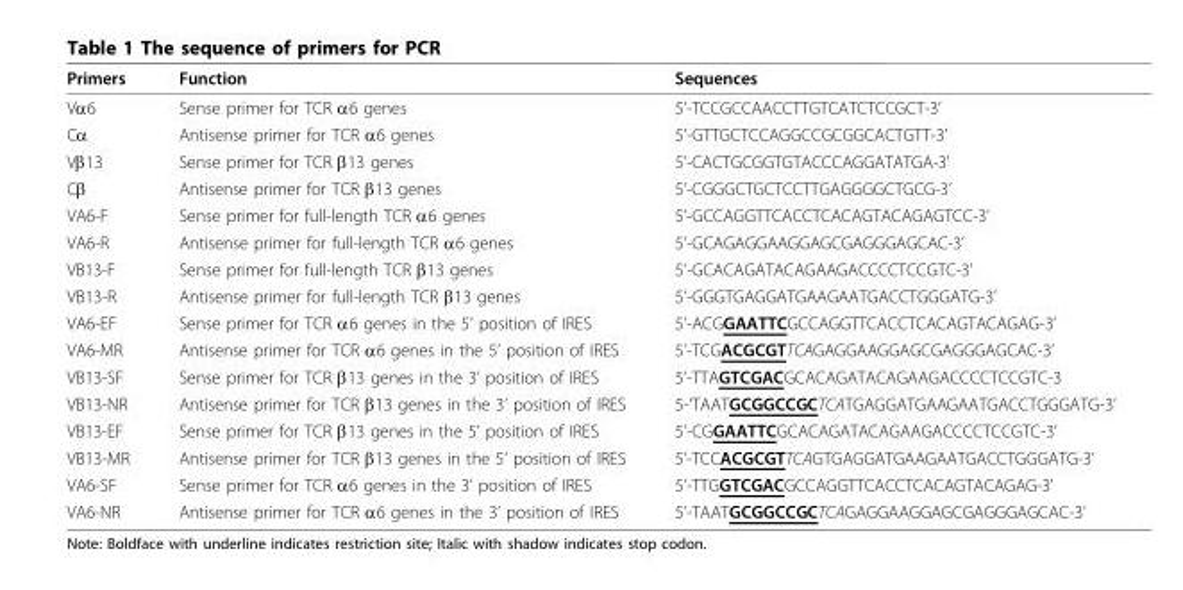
<table><thead><tr><td>Primers</td><td>Function</td><td>Sequences</td></tr></thead><tbody><tr><td>Vα6</td><td>Sense primer for TCR α6 genes</td><td>5’-TCCGCCAACCTTGTCATCTCCGCT-3’</td></tr><tr><td>Cα</td><td>Antisense primer for TCR α6 genes</td><td>5’-GTTGCTCCAGGCCGCGGCACTGTT-3’</td></tr><tr><td>Vβ13</td><td>Sense primer for TCR β13 genes</td><td>5’-CACTGCGGTGTACCCAGGATATGA-3’</td></tr><tr><td>Cβ</td><td>Antisense primer for TCR β13 genes</td><td>5’-CGGGCTGCTCCTTGAGGGGCTGCG-3’</td></tr><tr><td>VA6-F</td><td>Sense primer for full-length TCR α6 genes</td><td>5’-GCCAGGTTCACCTCACAGTACAGAGTCC-3’</td></tr><tr><td>VA6-R</td><td>Antisense primer for full-length TCR α6 genes</td><td>5’-GCAGAGGAAGGAGCGAGGGAGCAC-3’</td></tr><tr><td>VB13-F</td><td>Sense primer for full-length TCR β13 genes</td><td>5’-GCACAGATACAGAAGACCCCTCCGTC-3’</td></tr><tr><td>VB13-R</td><td>Antisense primer for full-length TCR β13 genes</td><td>5’-GGGTGAGGATGAAGAATGACCTGGGATG-3’</td></tr><tr><td>VA6-EF</td><td>Sense primer for TCR α6 genes in the 5’ position of IRES</td><td>5’-ACGGAATTCGCCAGGTTCACCTCACAGTACAGAG-3’</td></tr><tr><td>VA6-MR</td><td>Antisense primer for TCR α6 genes in the 5’ position of IRES</td><td>5’-TCGACGCGTTCAGAGGAAGGAGCGAGGGAGCAC-3’</td></tr><tr><td>VB13-SF</td><td>Sense primer for TCR β13 genes in the 3’ position of IRES</td><td>5’-TTAGTCGACGCACAGATACAGAAGACCCCTCCGTC-3</td></tr><tr><td>VB13-NR</td><td>Antisense primer for TCR β13 genes in the 3’ position of IRES</td><td>5-’TAATGCGGCCGCTCATGAGGATGAAGAATGACCTGGGATG-3’</td></tr><tr><td>VB13-EF</td><td>Sense primer for TCR β13 genes in the 5’ position of IRES</td><td>5’-CGGAATTCGCACAGATACAGAAGACCCCTCCGTC-3’</td></tr><tr><td>VB13-MR</td><td>Antisense primer for TCR β13 genes in the 5’ position of IRES</td><td>5’-TCCACGCGTTCAGTGAGGATGAAGAATGACCTGGGATG-3’</td></tr><tr><td>VA6-SF</td><td>Sense primer for TCR α6 genes in the 3’ position of IRES</td><td>5’-TTGGTCGACGCCAGGTTCACCTCACAGTACAGAG-3’</td></tr><tr><td>VA6-NR</td><td>Antisense primer for TCR α6 genes in the 3’ position of IRES</td><td>5’-TAATGCGGCCGCTCAGAGGAAGGAGCGAGGGAGCAC-3’</td></tr></tbody></table>